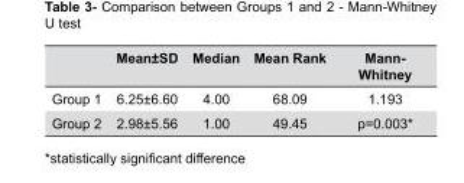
<table><thead><tr><td></td><td>Mean±SD</td><td>Median</td><td>Mean Rank</td><td>Mann- Whitney</td></tr></thead><tbody><tr><td>Group 1</td><td>6.25±6.60</td><td>4.00</td><td>68.09</td><td>1.193</td></tr><tr><td>Group 2</td><td>2.98±5.56</td><td>1.00</td><td>49.45</td><td>p=0.003*</td></tr></tbody></table>